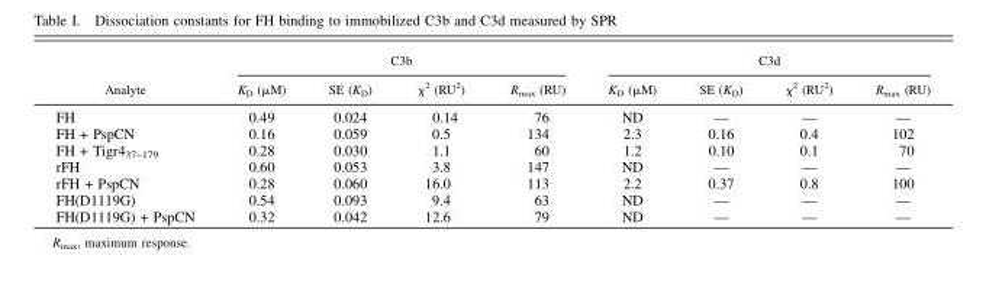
<table><thead><tr><td rowspan="2">Analyte</td><td colspan="4">C3b</td><td colspan="4">C3d</td></tr><tr><td>K<sub>D</sub> (μM)</td><td>SE (K<sub>D</sub>)</td><td>χ<sup>2</sup> (RU<sup>2</sup>)</td><td>R<sub>max</sub> (RU)</td><td>K<sub>D</sub> (μM)</td><td>SE (K<sub>D</sub>)</td><td>χ<sup>2</sup> (RU<sup>2</sup>)</td><td>R<sub>max</sub> (RU)</td></tr></thead><tbody><tr><td>FH</td><td>0.49</td><td>0.024</td><td>0.14</td><td>76</td><td>ND</td><td>—</td><td>—</td><td>—</td></tr><tr><td>FH + PspCN</td><td>0.16</td><td>0.059</td><td>0.5</td><td>134</td><td>2.3</td><td>0.16</td><td>0.4</td><td>102</td></tr><tr><td>FH + Tigr4<sub>37–179</sub></td><td>0.28</td><td>0.030</td><td>1.1</td><td>60</td><td>1.2</td><td>0.10</td><td>0.1</td><td>70</td></tr><tr><td>rFH</td><td>0.60</td><td>0.053</td><td>3.8</td><td>147</td><td>ND</td><td>—</td><td>—</td><td>—</td></tr><tr><td>rFH + PspCN</td><td>0.28</td><td>0.060</td><td>16.0</td><td>113</td><td>2.2</td><td>0.37</td><td>0.8</td><td>100</td></tr><tr><td>FH(D1119G)</td><td>0.54</td><td>0.093</td><td>9.4</td><td>63</td><td>ND</td><td>—</td><td>—</td><td>—</td></tr><tr><td>FH(D1119G) + PspCN</td><td>0.32</td><td>0.042</td><td>12.6</td><td>79</td><td>ND</td><td>—</td><td>—</td><td>—</td></tr></tbody></table>